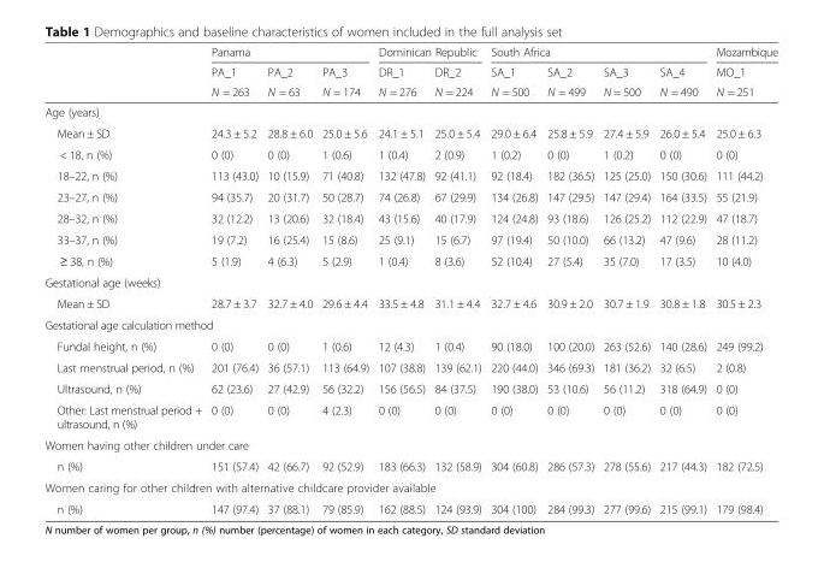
<table><thead><tr><td rowspan="3"></td><td colspan="3">Panama</td><td colspan="2">Dominican Republic</td><td colspan="4">South Africa</td><td rowspan="3">Mozambique MO_1 N = 251</td></tr><tr><td rowspan="2">PA_1 N = 263</td><td rowspan="2">PA_2 N = 63</td><td rowspan="2">PA_3 N = 174</td><td rowspan="2">DR_1 N = 276</td><td rowspan="2">DR_2 N = 224</td><td rowspan="2">SA_1 N = 500</td><td rowspan="2">SA_2 N = 499</td><td rowspan="2">SA_3 N = 500</td><td rowspan="2">SA_4 N = 490</td></tr><tr></tr></thead><tbody><tr><td colspan="11">Age (years)</td></tr><tr><td>Mean ± SD</td><td>24.3 ± 5.2</td><td>28.8 ± 6.0</td><td>25.0 ± 5.6</td><td>24.1 ± 5.1</td><td>25.0 ± 5.4</td><td>29.0 ± 6.4</td><td>25.8 ± 5.9</td><td>27.4 ± 5.9</td><td>26.0 ± 5.4</td><td>25.0 ± 6.3</td></tr><tr><td>&lt; 18, n (%)</td><td>0 (0)</td><td>0 (0)</td><td>1 (0.6)</td><td>1 (0.4)</td><td>2 (0.9)</td><td>1 (0.2)</td><td>0 (0)</td><td>1 (0.2)</td><td>0 (0)</td><td>0 (0)</td></tr><tr><td>18–22, n (%)</td><td>113 (43.0)</td><td>10 (15.9)</td><td>71 (40.8)</td><td>132 (47.8)</td><td>92 (41.1)</td><td>92 (18.4)</td><td>182 (36.5)</td><td>125 (25.0)</td><td>150 (30.6)</td><td>111 (44.2)</td></tr><tr><td>23–27, n (%)</td><td>94 (35.7)</td><td>20 (31.7)</td><td>50 (28.7)</td><td>74 (26.8)</td><td>67 (29.9)</td><td>134 (26.8)</td><td>147 (29.5)</td><td>147 (29.4)</td><td>164 (33.5)</td><td>55 (21.9)</td></tr><tr><td>28–32, n (%)</td><td>32 (12.2)</td><td>13 (20.6)</td><td>32 (18.4)</td><td>43 (15.6)</td><td>40 (17.9)</td><td>124 (24.8)</td><td>93 (18.6)</td><td>126 (25.2)</td><td>112 (22.9)</td><td>47 (18.7)</td></tr><tr><td>33–37, n (%)</td><td>19 (7.2)</td><td>16 (25.4)</td><td>15 (8.6)</td><td>25 (9.1)</td><td>15 (6.7)</td><td>97 (19.4)</td><td>50 (10.0)</td><td>66 (13.2)</td><td>47 (9.6)</td><td>28 (11.2)</td></tr><tr><td>≥ 38, n (%)</td><td>5 (1.9)</td><td>4 (6.3)</td><td>5 (2.9)</td><td>1 (0.4)</td><td>8 (3.6)</td><td>52 (10.4)</td><td>27 (5.4)</td><td>35 (7.0)</td><td>17 (3.5)</td><td>10 (4.0)</td></tr><tr><td colspan="11">Gestational age (weeks)</td></tr><tr><td>Mean ± SD</td><td>28.7 ± 3.7</td><td>32.7 ± 4.0</td><td>29.6 ± 4.4</td><td>33.5 ± 4.8</td><td>31.1 ± 4.4</td><td>32.7 ± 4.6</td><td>30.9 ± 2.0</td><td>30.7 ± 1.9</td><td>30.8 ± 1.8</td><td>30.5 ± 2.3</td></tr><tr><td colspan="11">Gestational age calculation method</td></tr><tr><td>Fundal height, n (%)</td><td>0 (0)</td><td>0 (0)</td><td>1 (0.6)</td><td>12 (4.3)</td><td>1 (0.4)</td><td>90 (18.0)</td><td>100 (20.0)</td><td>263 (52.6)</td><td>140 (28.6)</td><td>249 (99.2)</td></tr><tr><td>Last menstrual period, n (%)</td><td>201 (76.4)</td><td>36 (57.1)</td><td>113 (64.9)</td><td>107 (38.8)</td><td>139 (62.1)</td><td>220 (44.0)</td><td>346 (69.3)</td><td>181 (36.2)</td><td>32 (6.5)</td><td>2 (0.8)</td></tr><tr><td>Ultrasound, n (%)</td><td>62 (23.6)</td><td>27 (42.9)</td><td>56 (32.2)</td><td>156 (56.5)</td><td>84 (37.5)</td><td>190 (38.0)</td><td>53 (10.6)</td><td>56 (11.2)</td><td>318 (64.9)</td><td>0 (0)</td></tr><tr><td>Other: Last menstrual period + ultrasound, n (%)</td><td>0 (0)</td><td>0 (0)</td><td>4 (2.3)</td><td>0 (0)</td><td>0 (0)</td><td>0 (0)</td><td>0 (0)</td><td>0 (0)</td><td>0 (0)</td><td>0 (0)</td></tr><tr><td colspan="11">Women having other children under care</td></tr><tr><td>n (%)</td><td>151 (57.4)</td><td>42 (66.7)</td><td>92 (52.9)</td><td>183 (66.3)</td><td>132 (58.9)</td><td>304 (60.8)</td><td>286 (57.3)</td><td>278 (55.6)</td><td>217 (44.3)</td><td>182 (72.5)</td></tr><tr><td colspan="11">Women caring for other children with alternative childcare provider available</td></tr><tr><td>n (%)</td><td>147 (97.4)</td><td>37 (88.1)</td><td>79 (85.9)</td><td>162 (88.5)</td><td>124 (93.9)</td><td>304 (100)</td><td>284 (99.3)</td><td>277 (99.6)</td><td>215 (99.1)</td><td>179 (98.4)</td></tr></tbody></table>